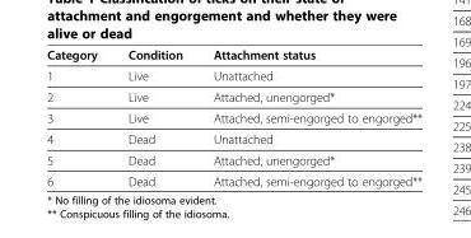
<table><thead><tr><td>Category</td><td>Condition</td><td>Attachment status</td></tr></thead><tbody><tr><td>1</td><td>Live</td><td>Unattached</td></tr><tr><td>2</td><td>Live</td><td>Attached, unengorged*</td></tr><tr><td>3</td><td>Live</td><td>Attached, semi-engorged to engorged**</td></tr><tr><td>4</td><td>Dead</td><td>Unattached</td></tr><tr><td>5</td><td>Dead</td><td>Attached, unengorged*</td></tr><tr><td>6</td><td>Dead</td><td>Attached, semi-engorged to engorged**</td></tr></tbody></table>